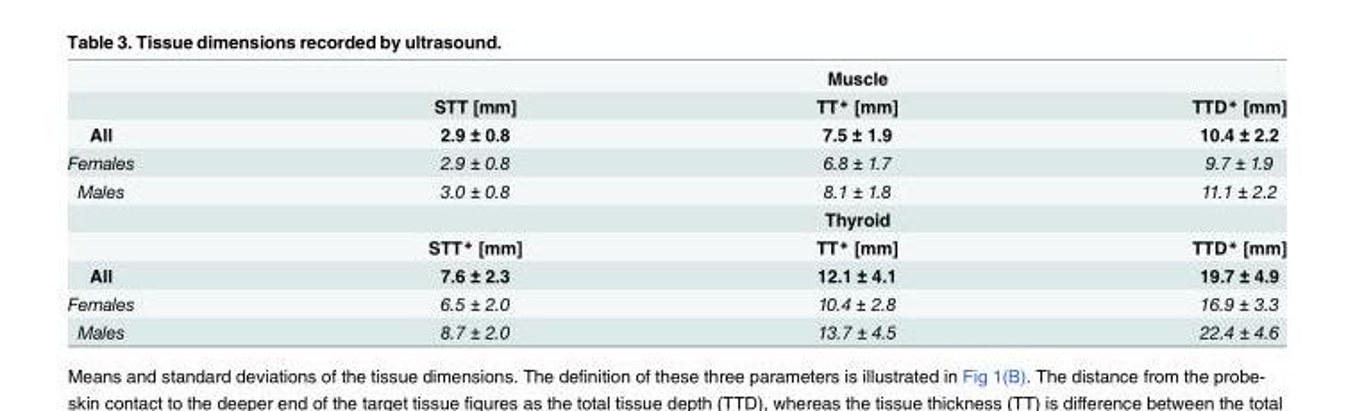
<table><thead><tr><td rowspan="2"></td><td colspan="3">Muscle</td></tr><tr><td>STT [mm]</td><td>TT* [mm]</td><td>TTD* [mm]</td></tr></thead><tbody><tr><td>All</td><td>2.9 ± 0.8</td><td>7.5 ± 1.9</td><td>10.4 ± 2.2</td></tr><tr><td>Females</td><td>2.9 ± 0.8</td><td>6.8 ± 1.7</td><td>9.7 ± 1.9</td></tr><tr><td rowspan="3">Males</td><td>3.0 ± 0.8</td><td>8.1 ± 1.8</td><td>11.1 ± 2.2</td></tr><tr><td colspan="3">Thyroid</td></tr><tr><td>STT* [mm]</td><td>TT* [mm]</td><td>TTD* [mm]</td></tr><tr><td>All</td><td>7.6 ± 2.3</td><td>12.1 ± 4.1</td><td>19.7 ± 4.9</td></tr><tr><td>Females</td><td>6.5 ± 2.0</td><td>10.4 ± 2.8</td><td>16.9 ± 3.3</td></tr><tr><td>Males</td><td>8.7 ± 2.0</td><td>13.7 ± 4.5</td><td>22.4 ± 4.6</td></tr></tbody></table>